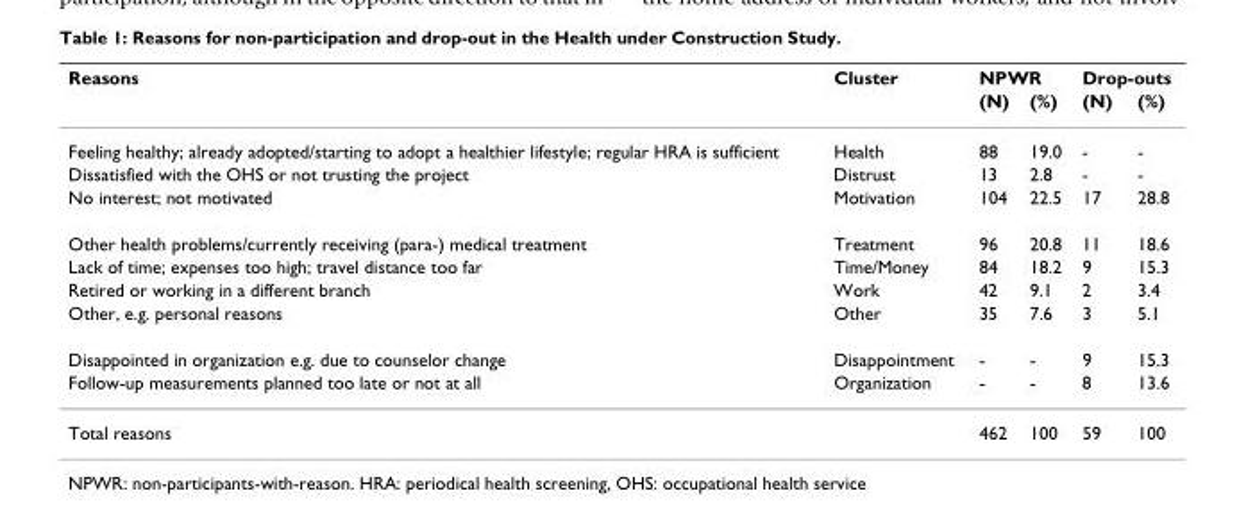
<table><thead><tr><td rowspan="2">Reasons</td><td rowspan="2">Cluster</td><td colspan="2">NPWR</td><td colspan="2">Drop-outs</td></tr><tr><td>(N)</td><td>(%)</td><td>(N)</td><td>(%)</td></tr></thead><tbody><tr><td>Feeling healthy; already adopted/starting to adopt a healthier lifestyle; regular HRA is sufficient</td><td>Health</td><td>88</td><td>19.0</td><td>-</td><td>-</td></tr><tr><td>Dissatisfied with the OHS or not trusting the project</td><td>Distrust</td><td>13</td><td>2.8</td><td>-</td><td>-</td></tr><tr><td>No interest; not motivated</td><td>Motivation</td><td>104</td><td>22.5</td><td>17</td><td>28.8</td></tr><tr><td>Other health problems/currently receiving (para-) medical treatment</td><td>Treatment</td><td>96</td><td>20.8</td><td>11</td><td>18.6</td></tr><tr><td>Lack of time; expenses too high; travel distance too far</td><td>Time/Money</td><td>84</td><td>18.2</td><td>9</td><td>15.3</td></tr><tr><td>Retired or working in a different branch</td><td>Work</td><td>42</td><td>9.1</td><td>2</td><td>3.4</td></tr><tr><td>Other, e.g. personal reasons</td><td>Other</td><td>35</td><td>7.6</td><td>3</td><td>5.1</td></tr><tr><td>Disappointed in organization e.g. due to counselor change</td><td>Disappointment</td><td>-</td><td>-</td><td>9</td><td>15.3</td></tr><tr><td>Follow-up measurements planned too late or not at all</td><td>Organization</td><td>-</td><td>-</td><td>8</td><td>13.6</td></tr><tr><td>Total reasons</td><td></td><td>462</td><td>100</td><td>59</td><td>100</td></tr></tbody></table>